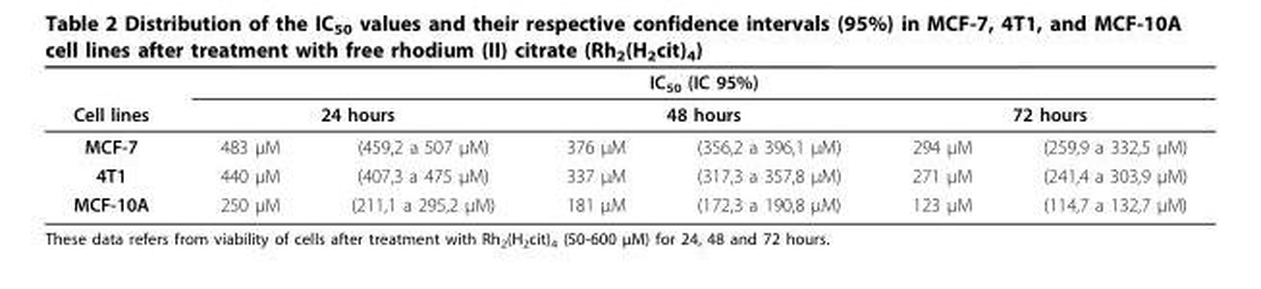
<table><thead><tr><td rowspan="3">Cell lines MCF-7</td><td colspan="6">IC<sub>50</sub> (IC 95%)</td></tr><tr><td colspan="2">24 hours</td><td colspan="2">48 hours</td><td colspan="2">72 hours</td></tr><tr><td>483 μM</td><td>(459,2 a 507 μM)</td><td>376 μM</td><td>(356,2 a 396,1 μM)</td><td>294 μM</td><td>(259,9 a 332,5 μM)</td></tr></thead><tbody><tr><td>4T1</td><td>440 μM</td><td>(407,3 a 475 μM)</td><td>337 μM</td><td>(317,3 a 357,8 μM)</td><td>271 μM</td><td>(241,4 a 303,9 μM)</td></tr><tr><td>MCF-10A</td><td>250 μM</td><td>(211,1 a 295,2 μM)</td><td>181 μM</td><td>(172,3 a 190,8 μM)</td><td>123 μM</td><td>(114,7 a 132,7 μM)</td></tr></tbody></table>